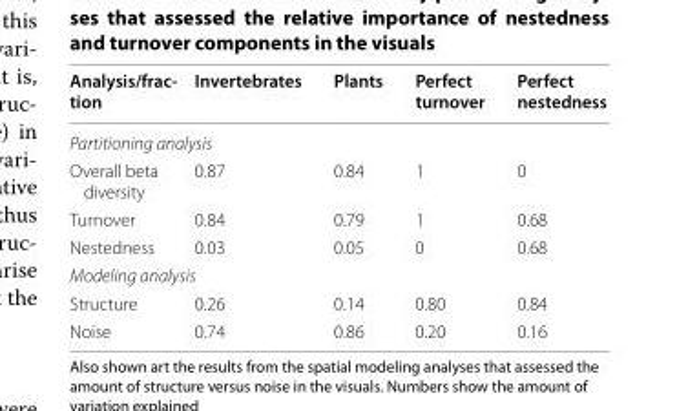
<table><thead><tr><td>Analysis/frac- tion</td><td>Invertebrates</td><td>Plants</td><td>Perfect turnover</td><td>Perfect nestedness</td></tr></thead><tbody><tr><td colspan="5">Partitioning analysis</td></tr><tr><td>Overall beta diversity</td><td>0.87</td><td>0.84</td><td>1</td><td>0</td></tr><tr><td>Turnover</td><td>0.84</td><td>0.79</td><td>1</td><td>0.68</td></tr><tr><td>Nestedness</td><td>0.03</td><td>0.05</td><td>0</td><td>0.68</td></tr><tr><td colspan="5">Modeling analysis</td></tr><tr><td>Structure</td><td>0.26</td><td>0.14</td><td>0.80</td><td>0.84</td></tr><tr><td>Noise</td><td>0.74</td><td>0.86</td><td>0.20</td><td>0.16</td></tr></tbody></table>